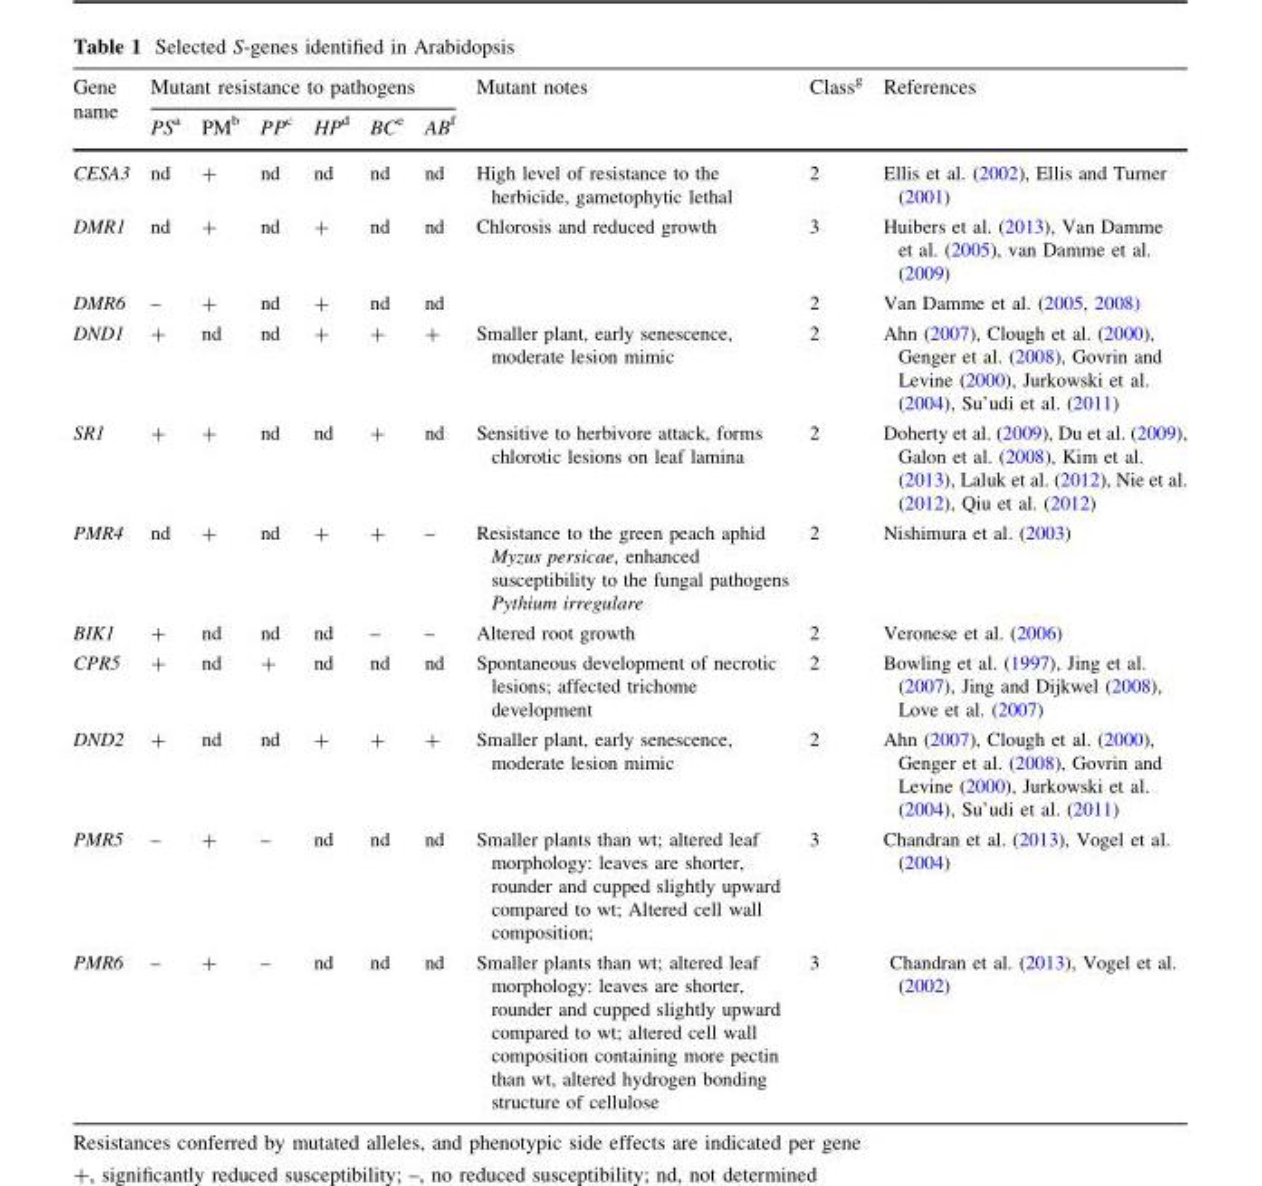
<table><thead><tr><td rowspan="2">Gene name</td><td colspan="6">Mutant resistance to pathogens</td><td rowspan="2">Mutant notes</td><td rowspan="2">Class<sup>g</sup></td><td rowspan="2">References</td></tr><tr><td>PS<sup>a</sup></td><td>PM<sup>b</sup></td><td>PP<sup>c</sup></td><td>HP<sup>d</sup></td><td>BC<sup>e</sup></td><td>AB<sup>f</sup></td></tr></thead><tbody><tr><td>CESA3</td><td>nd</td><td>+</td><td>nd</td><td>nd</td><td>nd</td><td>nd</td><td>High level of resistance to the herbicide, gametophytic lethal</td><td>2</td><td>Ellis et al. (2002), Ellis and Turner (2001)</td></tr><tr><td>DMR1</td><td>nd</td><td>+</td><td>nd</td><td>+</td><td>nd</td><td>nd</td><td>Chlorosis and reduced growth</td><td>3</td><td>Huibers et al. (2013), Van Damme et al. (2005), van Damme et al. (2009)</td></tr><tr><td>DMR6</td><td>–</td><td>+</td><td>nd</td><td>+</td><td>nd</td><td>nd</td><td></td><td>2</td><td>Van Damme et al. (2005, 2008)</td></tr><tr><td>DND1</td><td>+</td><td>nd</td><td>nd</td><td>+</td><td>+</td><td>+</td><td>Smaller plant, early senescence, moderate lesion mimic</td><td>2</td><td>Ahn (2007), Clough et al. (2000), Genger et al. (2008), Govrin and Levine (2000), Jurkowski et al. (2004), Su’udi et al. (2011)</td></tr><tr><td>SR1</td><td>+</td><td>+</td><td>nd</td><td>nd</td><td>+</td><td>nd</td><td>Sensitive to herbivore attack, forms chlorotic lesions on leaf lamina</td><td>2</td><td>Doherty et al. (2009), Du et al. (2009), Galon et al. (2008), Kim et al. (2013), Laluk et al. (2012), Nie et al. (2012), Qiu et al. (2012)</td></tr><tr><td>PMR4</td><td>nd</td><td>+</td><td>nd</td><td>+</td><td>+</td><td>–</td><td>Resistance to the green peach aphid Myzus persicae, enhanced susceptibility to the fungal pathogens Pythium irregulare</td><td>2</td><td>Nishimura et al. (2003)</td></tr><tr><td>BIK1</td><td>+</td><td>nd</td><td>nd</td><td>nd</td><td>–</td><td>–</td><td>Altered root growth</td><td>2</td><td>Veronese et al. (2006)</td></tr><tr><td>CPR5</td><td>+</td><td>nd</td><td>+</td><td>nd</td><td>nd</td><td>nd</td><td>Spontaneous development of necrotic lesions; affected trichome development</td><td>2</td><td>Bowling et al. (1997), Jing et al. (2007), Jing and Dijkwel (2008), Love et al. (2007)</td></tr><tr><td>DND2</td><td>+</td><td>nd</td><td>nd</td><td>+</td><td>+</td><td>+</td><td>Smaller plant, early senescence, moderate lesion mimic</td><td>2</td><td>Ahn (2007), Clough et al. (2000), Genger et al. (2008), Govrin and Levine (2000), Jurkowski et al. (2004), Su’udi et al. (2011)</td></tr><tr><td>PMR5</td><td>–</td><td>+</td><td>–</td><td>nd</td><td>nd</td><td>nd</td><td>Smaller plants than wt; altered leaf morphology: leaves are shorter, rounder and cupped slightly upward compared to wt; Altered cell wall composition;</td><td>3</td><td>Chandran et al. (2013), Vogel et al. (2004)</td></tr><tr><td>PMR6</td><td>–</td><td>+</td><td>–</td><td>nd</td><td>nd</td><td>nd</td><td>Smaller plants than wt; altered leaf morphology: leaves are shorter, rounder and cupped slightly upward compared to wt; altered cell wall composition containing more pectin than wt, altered hydrogen bonding structure of cellulose</td><td>3</td><td>Chandran et al. (2013), Vogel et al. (2002)</td></tr></tbody></table>